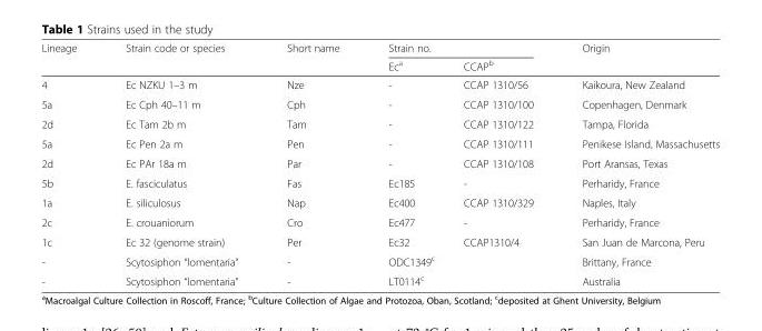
<table><thead><tr><td rowspan="2">Lineage</td><td rowspan="2">Strain code or species</td><td rowspan="2">Short name</td><td colspan="2">Strain no.</td><td rowspan="2">Origin</td></tr><tr><td>Ec<sup>a</sup></td><td>CCAP<sup>b</sup></td></tr></thead><tbody><tr><td>4</td><td>Ec NZKU 1–3 m</td><td>Nze</td><td>-</td><td>CCAP 1310/56</td><td>Kaikoura, New Zealand</td></tr><tr><td>5a</td><td>Ec Cph 40–11 m</td><td>Cph</td><td>-</td><td>CCAP 1310/100</td><td>Copenhagen, Denmark</td></tr><tr><td>2d</td><td>Ec Tam 2b m</td><td>Tam</td><td>-</td><td>CCAP 1310/122</td><td>Tampa, Florida</td></tr><tr><td>5a</td><td>Ec Pen 2a m</td><td>Pen</td><td>-</td><td>CCAP 1310/111</td><td>Penikese Island, Massachusetts</td></tr><tr><td>2d</td><td>Ec PAr 18a m</td><td>Par</td><td>-</td><td>CCAP 1310/108</td><td>Port Aransas, Texas</td></tr><tr><td>5b</td><td>E. fasciculatus</td><td>Fas</td><td>Ec185</td><td>-</td><td>Perharidy, France</td></tr><tr><td>1a</td><td>E. siliculosus</td><td>Nap</td><td>Ec400</td><td>CCAP 1310/329</td><td>Naples, Italy</td></tr><tr><td>2c</td><td>E. crouaniorum</td><td>Cro</td><td>Ec477</td><td>-</td><td>Perharidy, France</td></tr><tr><td>1c</td><td>Ec 32 (genome strain)</td><td>Per</td><td>Ec32</td><td>CCAP1310/4</td><td>San Juan de Marcona, Peru</td></tr><tr><td>-</td><td>Scytosiphon “lomentaria”</td><td>-</td><td colspan="2">ODC1349<sup>c</sup></td><td>Brittany, France</td></tr><tr><td>-</td><td>Scytosiphon “lomentaria”</td><td>-</td><td colspan="2">LT0114<sup>c</sup></td><td>Australia</td></tr></tbody></table>